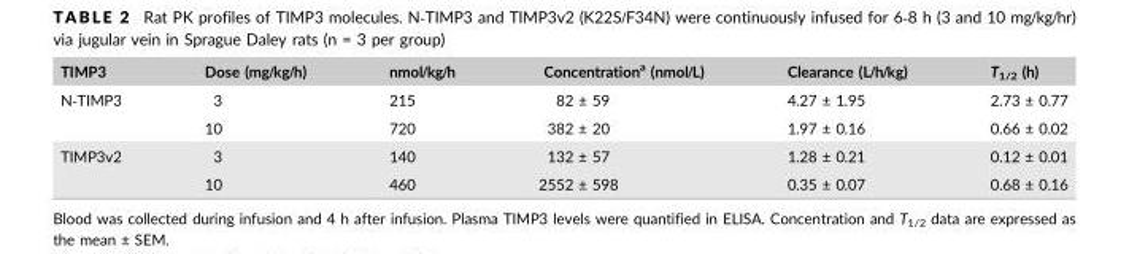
<table><thead><tr><td>TIMP3</td><td>Dose (mg/kg/h)</td><td>nmol/kg/h</td><td>Concentration<sup>a</sup> (nmol/L)</td><td>Clearance (L/h/kg)</td><td>T<sub>1/2</sub> (h)</td></tr></thead><tbody><tr><td rowspan="2">N‐TIMP3</td><td>3</td><td>215</td><td>82 ± 59</td><td>4.27 ± 1.95</td><td>2.73 ± 0.77</td></tr><tr><td>10</td><td>720</td><td>382 ± 20</td><td>1.97 ± 0.16</td><td>0.66 ± 0.02</td></tr><tr><td rowspan="2">TIMP3v2</td><td>3</td><td>140</td><td>132 ± 57</td><td>1.28 ± 0.21</td><td>0.12 ± 0.01</td></tr><tr><td>10</td><td>460</td><td>2552 ± 598</td><td>0.35 ± 0.07</td><td>0.68 ± 0.16</td></tr></tbody></table>